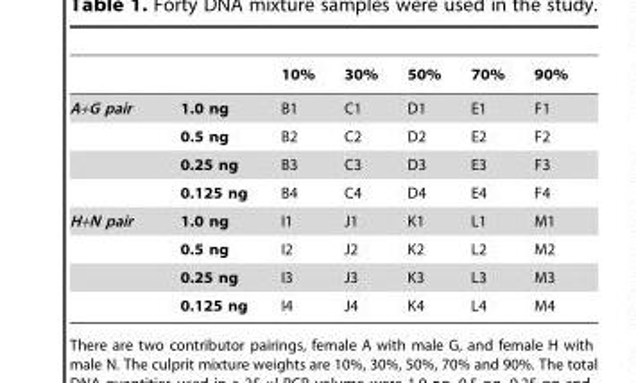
<table><thead><tr><td></td><td></td><td>10%</td><td>30%</td><td>50%</td><td>70%</td><td>90%</td></tr></thead><tbody><tr><td rowspan="4">A+G pair</td><td>1.0 ng</td><td>B1</td><td>C1</td><td>D1</td><td>E1</td><td>F1</td></tr><tr><td>0.5 ng</td><td>B2</td><td>C2</td><td>D2</td><td>E2</td><td>F2</td></tr><tr><td>0.25 ng</td><td>B3</td><td>C3</td><td>D3</td><td>E3</td><td>F3</td></tr><tr><td>0.125 ng</td><td>B4</td><td>C4</td><td>D4</td><td>E4</td><td>F4</td></tr><tr><td rowspan="4">H+N pair</td><td>1.0 ng</td><td>I1</td><td>J1</td><td>K1</td><td>L1</td><td>M1</td></tr><tr><td>0.5 ng</td><td>I2</td><td>J2</td><td>K2</td><td>L2</td><td>M2</td></tr><tr><td>0.25 ng</td><td>I3</td><td>J3</td><td>K3</td><td>L3</td><td>M3</td></tr><tr><td>0.125 ng</td><td>I4</td><td>J4</td><td>K4</td><td>L4</td><td>M4</td></tr></tbody></table>